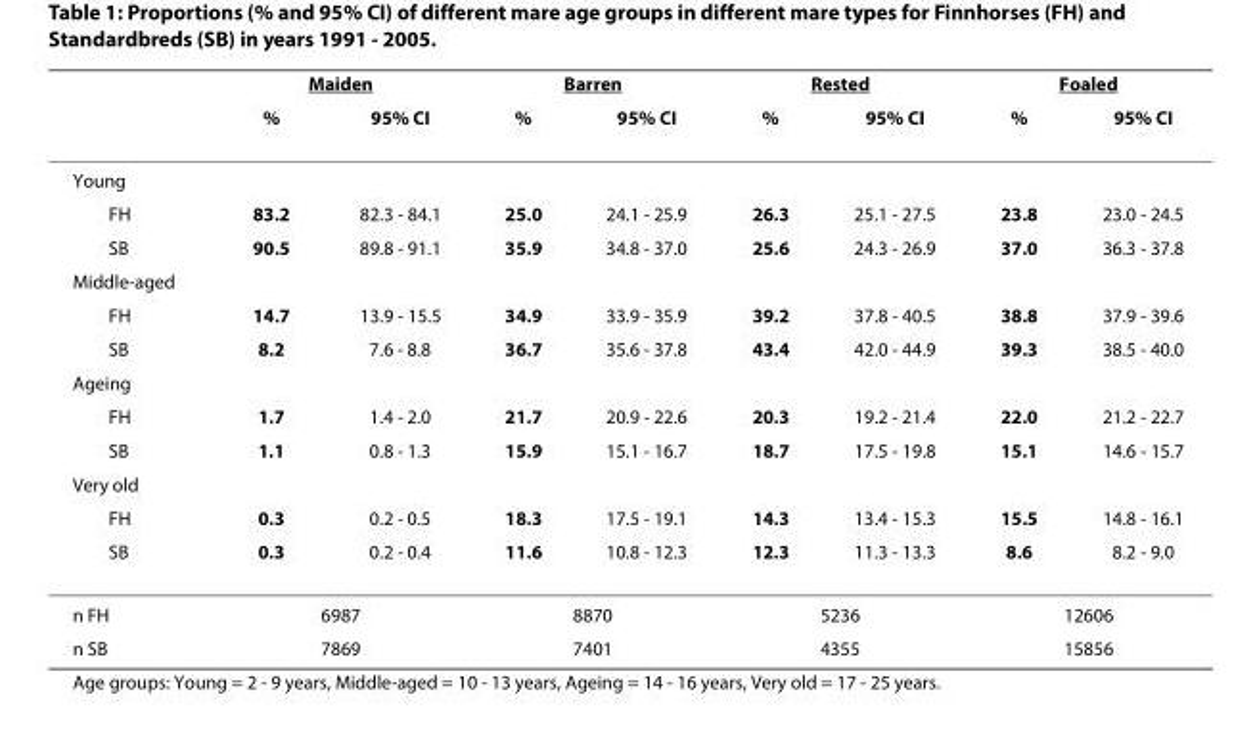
<table><thead><tr><td rowspan="2"></td><td colspan="2">Maiden</td><td colspan="2">Barren</td><td colspan="2">Rested</td><td colspan="2">Foaled</td></tr><tr><td>%</td><td>95% CI</td><td>%</td><td>95% CI</td><td>%</td><td>95% CI</td><td>%</td><td>95% CI</td></tr></thead><tbody><tr><td colspan="9">Young</td></tr><tr><td>FH</td><td>83.2</td><td>82.3 - 84.1</td><td>25.0</td><td>24.1 - 25.9</td><td>26.3</td><td>25.1 - 27.5</td><td>23.8</td><td>23.0 - 24.5</td></tr><tr><td>SB</td><td>90.5</td><td>89.8 - 91.1</td><td>35.9</td><td>34.8 - 37.0</td><td>25.6</td><td>24.3 - 26.9</td><td>37.0</td><td>36.3 - 37.8</td></tr><tr><td colspan="9">Middle-aged</td></tr><tr><td>FH</td><td>14.7</td><td>13.9 - 15.5</td><td>34.9</td><td>33.9 - 35.9</td><td>39.2</td><td>37.8 - 40.5</td><td>38.8</td><td>37.9 - 39.6</td></tr><tr><td>SB</td><td>8.2</td><td>7.6 - 8.8</td><td>36.7</td><td>35.6 - 37.8</td><td>43.4</td><td>42.0 - 44.9</td><td>39.3</td><td>38.5 - 40.0</td></tr><tr><td colspan="9">Ageing</td></tr><tr><td>FH</td><td>1.7</td><td>1.4 - 2.0</td><td>21.7</td><td>20.9 - 22.6</td><td>20.3</td><td>19.2 - 21.4</td><td>22.0</td><td>21.2 - 22.7</td></tr><tr><td>SB</td><td>1.1</td><td>0.8 - 1.3</td><td>15.9</td><td>15.1 - 16.7</td><td>18.7</td><td>17.5 - 19.8</td><td>15.1</td><td>14.6 - 15.7</td></tr><tr><td colspan="9">Very old</td></tr><tr><td>FH</td><td>0.3</td><td>0.2 - 0.5</td><td>18.3</td><td>17.5 - 19.1</td><td>14.3</td><td>13.4 - 15.3</td><td>15.5</td><td>14.8 - 16.1</td></tr><tr><td>SB</td><td>0.3</td><td>0.2 - 0.4</td><td>11.6</td><td>10.8 - 12.3</td><td>12.3</td><td>11.3 - 13.3</td><td>8.6</td><td>8.2 - 9.0</td></tr><tr><td>n FH</td><td colspan="2">6987</td><td colspan="2">8870</td><td colspan="2">5236</td><td colspan="2">12606</td></tr><tr><td>n SB</td><td colspan="2">7869</td><td colspan="2">7401</td><td colspan="2">4355</td><td colspan="2">15856</td></tr></tbody></table>